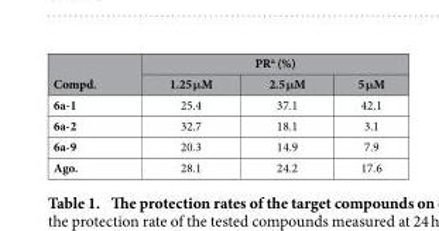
<table><thead><tr><td rowspan="2">Compd.</td><td colspan="3">PR<sup>a</sup> (%)</td></tr><tr><td>1.25 μM</td><td>2.5 μM</td><td>5 μM</td></tr></thead><tbody><tr><td>6a-1</td><td>25.4</td><td>37.1</td><td>42.1</td></tr><tr><td>6a-2</td><td>32.7</td><td>18.1</td><td>3.1</td></tr><tr><td>6a-9</td><td>20.3</td><td>14.9</td><td>7.9</td></tr><tr><td>Ago.</td><td>28.1</td><td>24.2</td><td>17.6</td></tr></tbody></table>